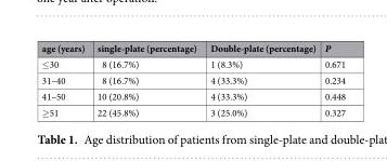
<table><thead><tr><td>age (years)</td><td>single-plate (percentage)</td><td>Double-plate (percentage)</td><td>P</td></tr></thead><tbody><tr><td>≤30</td><td>8 (16.7%)</td><td>1 (8.3%)</td><td>0.671</td></tr><tr><td>31–40</td><td>8 (16.7%)</td><td>4 (33.3%)</td><td>0.234</td></tr><tr><td>41–50</td><td>10 (20.8%)</td><td>4 (33.3%)</td><td>0.448</td></tr><tr><td>≥51</td><td>22 (45.8%)</td><td>3 (25.0%)</td><td>0.327</td></tr></tbody></table>